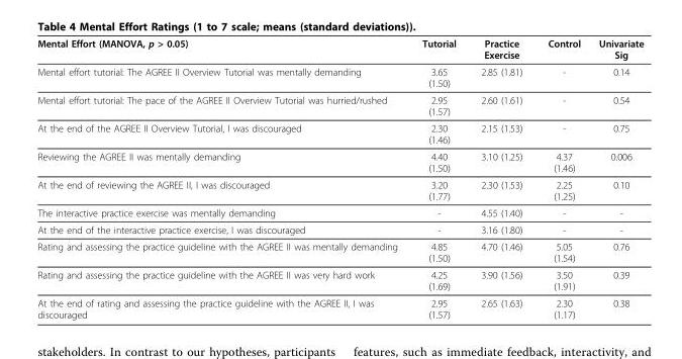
<table><thead><tr><td>Mental Effort (MANOVA, p &gt; 0.05)</td><td>Tutorial</td><td>Practice Exercise</td><td>Control</td><td>Univariate Sig</td></tr></thead><tbody><tr><td>Mental effort tutorial: The AGREE II Overview Tutorial was mentally demanding</td><td>3.65 (1.50)</td><td>2.85 (1.81)</td><td>-</td><td>0.14</td></tr><tr><td>Mental effort tutorial: The pace of the AGREE II Overview Tutorial was hurried/rushed</td><td>2.95 (1.57)</td><td>2.60 (1.61)</td><td>-</td><td>0.54</td></tr><tr><td>At the end of the AGREE II Overview Tutorial, I was discouraged</td><td>2.30 (1.46)</td><td>2.15 (1.53)</td><td>-</td><td>0.75</td></tr><tr><td>Reviewing the AGREE II was mentally demanding</td><td>4.40 (1.50)</td><td>3.10 (1.25)</td><td>4.37 (1.46)</td><td>0.006</td></tr><tr><td>At the end of reviewing the AGREE II, I was discouraged</td><td>3.20 (1.77)</td><td>2.30 (1.53)</td><td>2.25 (1.25)</td><td>0.10</td></tr><tr><td>The interactive practice exercise was mentally demanding</td><td>-</td><td>4.55 (1.40)</td><td>-</td><td>-</td></tr><tr><td>At the end of the interactive practice exercise, I was discouraged</td><td>-</td><td>3.16 (1.80)</td><td>-</td><td>-</td></tr><tr><td>Rating and assessing the practice guideline with the AGREE II was mentally demanding</td><td>4.85 (1.50)</td><td>4.70 (1.46)</td><td>5.05 (1.54)</td><td>0.76</td></tr><tr><td>Rating and assessing the practice guideline with the AGREE II was very hard work</td><td>4.25 (1.69)</td><td>3.90 (1.56)</td><td>3.50 (1.91)</td><td>0.39</td></tr><tr><td>At the end of rating and assessing the practice guideline with the AGREE II, I was discouraged</td><td>2.95 (1.57)</td><td>2.65 (1.63)</td><td>2.30 (1.17)</td><td>0.38</td></tr></tbody></table>